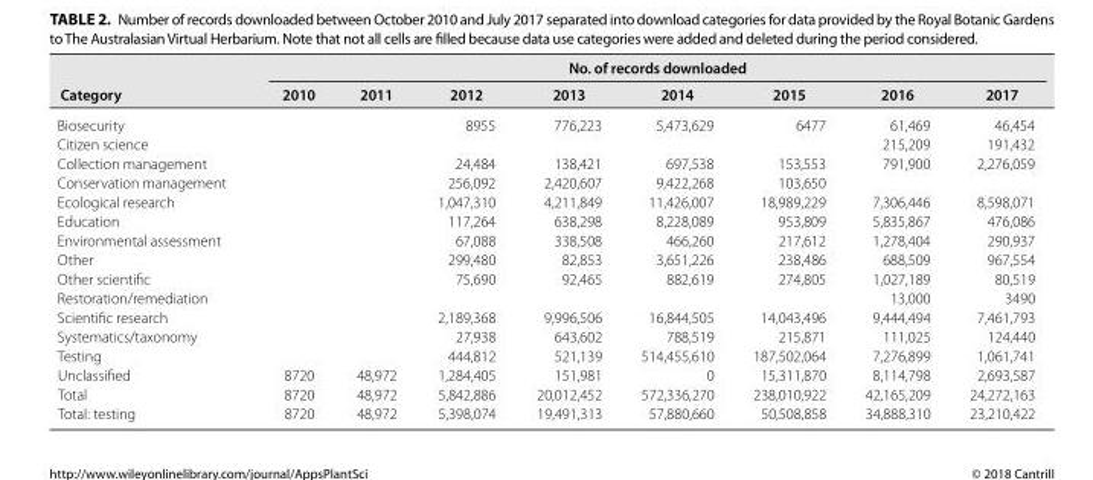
<table><thead><tr><td rowspan="2">Category</td><td colspan="8">No. of records downloaded</td></tr><tr><td>2010</td><td>2011</td><td>2012</td><td>2013</td><td>2014</td><td>2015</td><td>2016</td><td>2017</td></tr></thead><tbody><tr><td>Biosecurity</td><td></td><td></td><td>8955</td><td>776,223</td><td>5,473,629</td><td>6477</td><td>61,469</td><td>46,454</td></tr><tr><td>Citizen science</td><td></td><td></td><td></td><td></td><td></td><td></td><td>215,209</td><td>191,432</td></tr><tr><td>Collection management</td><td></td><td></td><td>24,484</td><td>138,421</td><td>697,538</td><td>153,553</td><td>791,900</td><td>2,276,059</td></tr><tr><td>Conservation management</td><td></td><td></td><td>256,092</td><td>2,420,607</td><td>9,422,268</td><td>103,650</td><td></td><td></td></tr><tr><td>Ecological research</td><td></td><td></td><td>1,047,310</td><td>4,211,849</td><td>11,426,007</td><td>18,989,229</td><td>7,306,446</td><td>8,598,071</td></tr><tr><td>Education</td><td></td><td></td><td>117,264</td><td>638,298</td><td>8,228,089</td><td>953,809</td><td>5,835,867</td><td>476,086</td></tr><tr><td>Environmental assessment</td><td></td><td></td><td>67,088</td><td>338,508</td><td>466,260</td><td>217,612</td><td>1,278,404</td><td>290,937</td></tr><tr><td>Other</td><td></td><td></td><td>299,480</td><td>82,853</td><td>3,651,226</td><td>238,486</td><td>688,509</td><td>967,554</td></tr><tr><td>Other scientific</td><td></td><td></td><td>75,690</td><td>92,465</td><td>882,619</td><td>274,805</td><td>1,027,189</td><td>80,519</td></tr><tr><td>Restoration/remediation</td><td></td><td></td><td></td><td></td><td></td><td></td><td>13,000</td><td>3490</td></tr><tr><td>Scientific research</td><td></td><td></td><td>2,189,368</td><td>9,996,506</td><td>16,844,505</td><td>14,043,496</td><td>9,444,494</td><td>7,461,793</td></tr><tr><td>Systematics/taxonomy</td><td></td><td></td><td>27,938</td><td>643,602</td><td>788,519</td><td>215,871</td><td>111,025</td><td>124,440</td></tr><tr><td>Testing</td><td></td><td></td><td>444,812</td><td>521,139</td><td>514,455,610</td><td>187,502,064</td><td>7,276,899</td><td>1,061,741</td></tr><tr><td>Unclassified</td><td>8720</td><td>48,972</td><td>1,284,405</td><td>151,981</td><td>0</td><td>15,311,870</td><td>8,114,798</td><td>2,693,587</td></tr><tr><td>Total</td><td>8720</td><td>48,972</td><td>5,842,886</td><td>20,012,452</td><td>572,336,270</td><td>238,010,922</td><td>42,165,209</td><td>24,272,163</td></tr><tr><td>Total: testing</td><td>8720</td><td>48,972</td><td>5,398,074</td><td>19,491,313</td><td>57,880,660</td><td>50,508,858</td><td>34,888,310</td><td>23,210,422</td></tr></tbody></table>